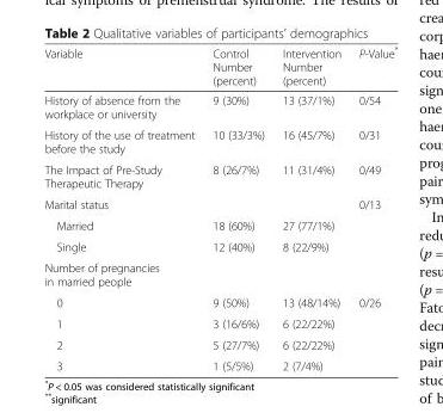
<table><thead><tr><td>Variable</td><td>Control Number (percent)</td><td>Intervention Number (percent)</td><td>P-Value*</td></tr></thead><tbody><tr><td>History of absence from the workplace or university</td><td>9 (30%)</td><td>13 (37/1%)</td><td>0/54</td></tr><tr><td>History of the use of treatment before the study</td><td>10 (33/3%)</td><td>16 (45/7%)</td><td>0/31</td></tr><tr><td>The Impact of Pre-Study Therapeutic Therapy</td><td>8 (26/7%)</td><td>11 (31/4%)</td><td>0/49</td></tr><tr><td>Marital status</td><td></td><td></td><td>0/13</td></tr><tr><td>Married</td><td>18 (60%)</td><td>27 (77/1%)</td><td></td></tr><tr><td>Single</td><td>12 (40%)</td><td>8 (22/9%)</td><td></td></tr><tr><td colspan="4">Number of pregnancies in married people</td></tr><tr><td>0</td><td>9 (50%)</td><td>13 (48/14%)</td><td rowspan="4">0/26</td></tr><tr><td>1</td><td>3 (16/6%)</td><td>6 (22/22%)</td></tr><tr><td>2</td><td>5 (27/7%)</td><td>6 (22/22%)</td></tr><tr><td>3</td><td>1 (5/5%)</td><td>2 (7/4%)</td></tr></tbody></table>